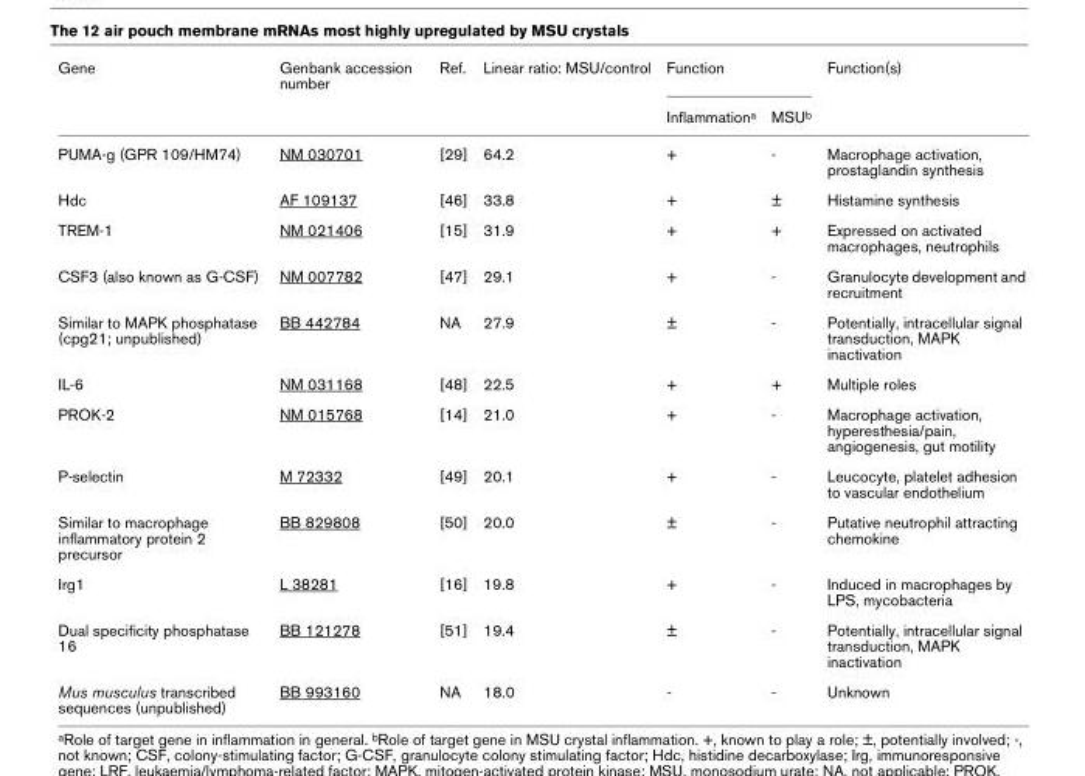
<table><thead><tr><td rowspan="2">Gene</td><td rowspan="2">Genbank accession number</td><td rowspan="2">Ref.</td><td rowspan="2">Linear ratio: MSU/control</td><td colspan="2">Function</td><td rowspan="2">Function(s)</td></tr><tr><td>Inflammation<sup>a</sup></td><td>MSU<sup>b</sup></td></tr></thead><tbody><tr><td>PUMA-g (GPR 109/HM74)</td><td>NM 030701</td><td>[29]</td><td>64.2</td><td>+</td><td>-</td><td>Macrophage activation, prostaglandin synthesis</td></tr><tr><td>Hdc</td><td>AF 109137</td><td>[46]</td><td>33.8</td><td>+</td><td>±</td><td>Histamine synthesis</td></tr><tr><td>TREM-1</td><td>NM 021406</td><td>[15]</td><td>31.9</td><td>+</td><td>+</td><td>Expressed on activated macrophages, neutrophils</td></tr><tr><td>CSF3 (also known as G-CSF)</td><td>NM 007782</td><td>[47]</td><td>29.1</td><td>+</td><td>-</td><td>Granulocyte development and recruitment</td></tr><tr><td>Similar to MAPK phosphatase (cpg21; unpublished)</td><td>BB 442784</td><td>NA</td><td>27.9</td><td>±</td><td>-</td><td>Potentially, intracellular signal transduction, MAPK inactivation</td></tr><tr><td>IL-6</td><td>NM 031168</td><td>[48]</td><td>22.5</td><td>+</td><td>+</td><td>Multiple roles</td></tr><tr><td>PROK-2</td><td>NM 015768</td><td>[14]</td><td>21.0</td><td>+</td><td>-</td><td>Macrophage activation, hyperesthesia/pain, angiogenesis, gut motility</td></tr><tr><td>P-selectin</td><td>M 72332</td><td>[49]</td><td>20.1</td><td>+</td><td>-</td><td>Leucocyte, platelet adhesion to vascular endothelium</td></tr><tr><td>Similar to macrophage inflammatory protein 2 precursor</td><td>BB 829808</td><td>[50]</td><td>20.0</td><td>±</td><td>-</td><td>Putative neutrophil attracting chemokine</td></tr><tr><td>Irg1</td><td>L 38281</td><td>[16]</td><td>19.8</td><td>+</td><td>-</td><td>Induced in macrophages by LPS, mycobacteria</td></tr><tr><td>Dual specificity phosphatase 16</td><td>BB 121278</td><td>[51]</td><td>19.4</td><td>±</td><td>-</td><td>Potentially, intracellular signal transduction, MAPK inactivation</td></tr><tr><td>Mus musculus transcribed sequences (unpublished)</td><td>BB 993160</td><td>NA</td><td>18.0</td><td>-</td><td>-</td><td>Unknown</td></tr></tbody></table>